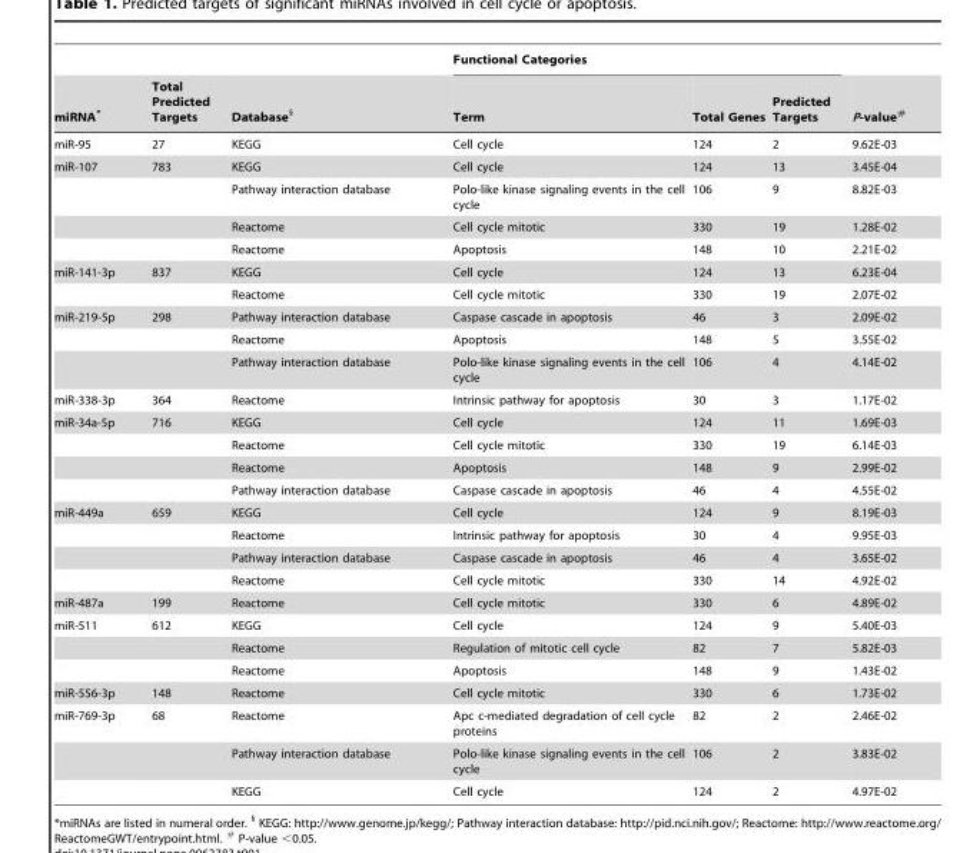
<table><thead><tr><td rowspan="2">miRNA*</td><td rowspan="2">Total Predicted Targets</td><td rowspan="2">Database<sup>§</sup></td><td colspan="3">Functional Categories</td><td rowspan="2">P-value<sup>#</sup></td></tr><tr><td>Term</td><td>Total Genes</td><td>Predicted Targets</td></tr></thead><tbody><tr><td>miR-95</td><td>27</td><td>KEGG</td><td>Cell cycle</td><td>124</td><td>2</td><td>9.62E-03</td></tr><tr><td rowspan="4">miR-107</td><td>783</td><td>KEGG</td><td>Cell cycle</td><td>124</td><td>13</td><td>3.45E-04</td></tr><tr><td></td><td>Pathway interaction database</td><td>Polo-like kinase signaling events in the cell cycle</td><td>106</td><td>9</td><td>8.82E-03</td></tr><tr><td></td><td>Reactome</td><td>Cell cycle mitotic</td><td>330</td><td>19</td><td>1.28E-02</td></tr><tr><td></td><td>Reactome</td><td>Apoptosis</td><td>148</td><td>10</td><td>2.21E-02</td></tr><tr><td rowspan="2">miR-141-3p</td><td>837</td><td>KEGG</td><td>Cell cycle</td><td>124</td><td>13</td><td>6.23E-04</td></tr><tr><td></td><td>Reactome</td><td>Cell cycle mitotic</td><td>330</td><td>19</td><td>2.07E-02</td></tr><tr><td rowspan="3">miR-219-5p</td><td>298</td><td>Pathway interaction database</td><td>Caspase cascade in apoptosis</td><td>46</td><td>3</td><td>2.09E-02</td></tr><tr><td></td><td>Reactome</td><td>Apoptosis</td><td>148</td><td>5</td><td>3.55E-02</td></tr><tr><td></td><td>Pathway interaction database</td><td>Polo-like kinase signaling events in the cell cycle</td><td>106</td><td>4</td><td>4.14E-02</td></tr><tr><td>miR-338-3p</td><td>364</td><td>Reactome</td><td>Intrinsic pathway for apoptosis</td><td>30</td><td>3</td><td>1.17E-02</td></tr><tr><td rowspan="4">miR-34a-5p</td><td>716</td><td>KEGG</td><td>Cell cycle</td><td>124</td><td>11</td><td>1.69E-03</td></tr><tr><td></td><td>Reactome</td><td>Cell cycle mitotic</td><td>330</td><td>19</td><td>6.14E-03</td></tr><tr><td></td><td>Reactome</td><td>Apoptosis</td><td>148</td><td>9</td><td>2.99E-02</td></tr><tr><td></td><td>Pathway interaction database</td><td>Caspase cascade in apoptosis</td><td>46</td><td>4</td><td>4.55E-02</td></tr><tr><td rowspan="4">miR-449a</td><td>659</td><td>KEGG</td><td>Cell cycle</td><td>124</td><td>9</td><td>8.19E-03</td></tr><tr><td></td><td>Reactome</td><td>Intrinsic pathway for apoptosis</td><td>30</td><td>4</td><td>9.95E-03</td></tr><tr><td></td><td>Pathway interaction database</td><td>Caspase cascade in apoptosis</td><td>46</td><td>4</td><td>3.65E-02</td></tr><tr><td></td><td>Reactome</td><td>Cell cycle mitotic</td><td>330</td><td>14</td><td>4.92E-02</td></tr><tr><td>miR-487a</td><td>199</td><td>Reactome</td><td>Cell cycle mitotic</td><td>330</td><td>6</td><td>4.89E-02</td></tr><tr><td rowspan="3">miR-511</td><td>612</td><td>KEGG</td><td>Cell cycle</td><td>124</td><td>9</td><td>5.40E-03</td></tr><tr><td></td><td>Reactome</td><td>Regulation of mitotic cell cycle</td><td>82</td><td>7</td><td>5.82E-03</td></tr><tr><td></td><td>Reactome</td><td>Apoptosis</td><td>148</td><td>9</td><td>1.43E-02</td></tr><tr><td>miR-556-3p</td><td>148</td><td>Reactome</td><td>Cell cycle mitotic</td><td>330</td><td>6</td><td>1.73E-02</td></tr><tr><td rowspan="3">miR-769-3p</td><td>68</td><td>Reactome</td><td>Apc c-mediated degradation of cell cycle proteins</td><td>82</td><td>2</td><td>2.46E-02</td></tr><tr><td></td><td>Pathway interaction database</td><td>Polo-like kinase signaling events in the cell cycle</td><td>106</td><td>2</td><td>3.83E-02</td></tr><tr><td></td><td>KEGG</td><td>Cell cycle</td><td>124</td><td>2</td><td>4.97E-02</td></tr></tbody></table>